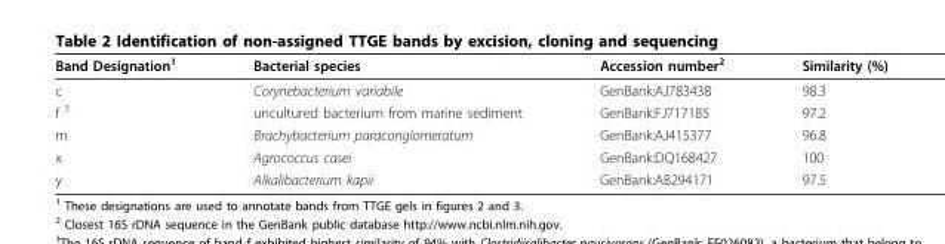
<table><thead><tr><td>Band Designation<sup>1</sup></td><td>Bacterial species</td><td>Accession number<sup>2</sup></td><td>Similarity (%)</td></tr></thead><tbody><tr><td>c</td><td>Corynebacterium variabile</td><td>GenBank:AJ783438</td><td>98.3</td></tr><tr><td>f <sup>3</sup></td><td>uncultured bacterium from marine sediment</td><td>GenBank:FJ717185</td><td>97.2</td></tr><tr><td>m</td><td>Brachybacterium paraconglomeratum</td><td>GenBank:AJ415377</td><td>96.8</td></tr><tr><td>x</td><td>Agrococcus casei</td><td>GenBank:DQ168427</td><td>100</td></tr><tr><td>y</td><td>Alkalibacterium kapii</td><td>GenBank:AB294171</td><td>97.5</td></tr></tbody></table>